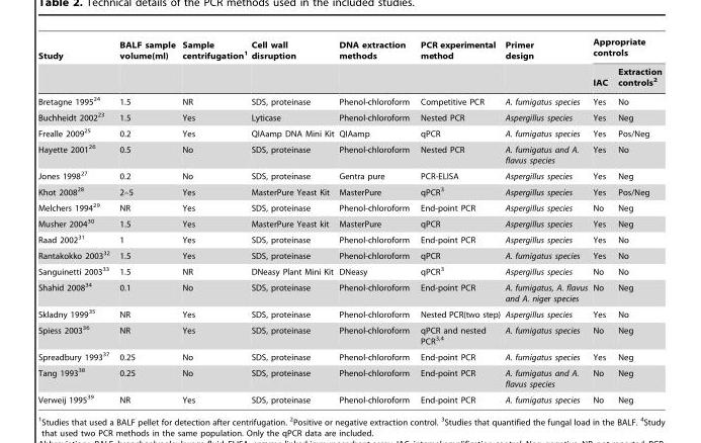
<table><thead><tr><td rowspan="2">Study</td><td rowspan="2">BALF sample volume(ml)</td><td rowspan="2">Sample centrifugation<sup>1</sup></td><td rowspan="2">Cell wall disruption</td><td rowspan="2">DNA extraction methods</td><td rowspan="2">PCR experimental method</td><td rowspan="2">Primer design</td><td colspan="2">Appropriate controls</td></tr><tr><td>IAC</td><td>Extraction controls<sup>2</sup></td></tr></thead><tbody><tr><td>Bretagne 1995<sup>24</sup></td><td>1.5</td><td>NR</td><td>SDS, proteinase</td><td>Phenol-chloroform</td><td>Competitive PCR</td><td>A. fumigatus species</td><td>Yes</td><td>No</td></tr><tr><td>Buchheidt 2002<sup>23</sup></td><td>1.5</td><td>Yes</td><td>Lyticase</td><td>Phenol-chloroform</td><td>Nested PCR</td><td>Aspergillus species</td><td>Yes</td><td>Neg</td></tr><tr><td>Frealle 2009<sup>25</sup></td><td>0.2</td><td>Yes</td><td>QIAamp DNA Mini Kit</td><td>QIAamp</td><td>qPCR</td><td>A. fumigatus species</td><td>Yes</td><td>Pos/Neg</td></tr><tr><td>Hayette 2001<sup>26</sup></td><td>0.5</td><td>No</td><td>SDS, proteinase</td><td>Phenol-chloroform</td><td>Nested PCR</td><td>A. fumigatus and A. flavus species</td><td>Yes</td><td>No</td></tr><tr><td>Jones 1998<sup>27</sup></td><td>0.2</td><td>No</td><td>SDS, proteinase</td><td>Gentra pure</td><td>PCR-ELISA</td><td>Aspergillus species</td><td>Yes</td><td>Neg</td></tr><tr><td>Khot 2008<sup>28</sup></td><td>2–5</td><td>Yes</td><td>MasterPure Yeast Kit</td><td>MasterPure</td><td>qPCR<sup>3</sup></td><td>Aspergillus species</td><td>Yes</td><td>Pos/Neg</td></tr><tr><td>Melchers 1994<sup>29</sup></td><td>NR</td><td>Yes</td><td>SDS, proteinase</td><td>Phenol-chloroform</td><td>End-point PCR</td><td>Aspergillus species</td><td>No</td><td>Neg</td></tr><tr><td>Musher 2004<sup>30</sup></td><td>1.5</td><td>Yes</td><td>MasterPure Yeast kit</td><td>MasterPure</td><td>qPCR</td><td>Aspergillus species</td><td>Yes</td><td>Neg</td></tr><tr><td>Raad 2002<sup>31</sup></td><td>1</td><td>Yes</td><td>SDS, proteinase</td><td>Phenol-chloroform</td><td>End-point PCR</td><td>Aspergillus species</td><td>Yes</td><td>No</td></tr><tr><td>Rantakokko 2003<sup>32</sup></td><td>1.5</td><td>Yes</td><td>SDS, proteinase</td><td>Phenol-chloroform</td><td>qPCR</td><td>A. fumigatus species</td><td>Yes</td><td>No</td></tr><tr><td>Sanguinetti 2003<sup>33</sup></td><td>1.5</td><td>NR</td><td>DNeasy Plant Mini Kit</td><td>DNeasy</td><td>qPCR<sup>3</sup></td><td>Aspergillus species</td><td>No</td><td>No</td></tr><tr><td>Shahid 2008<sup>34</sup></td><td>0.1</td><td>No</td><td>SDS, proteinase</td><td>Phenol-chloroform</td><td>End-point PCR</td><td>A. fumigatus, A. flavus and A. niger species</td><td>No</td><td>Neg</td></tr><tr><td>Skladny 1999<sup>35</sup></td><td>NR</td><td>Yes</td><td>SDS, proteinase</td><td>Phenol-chloroform</td><td>Nested PCR(two step)</td><td>Aspergillus species</td><td>Yes</td><td>No</td></tr><tr><td>Spiess 2003<sup>36</sup></td><td>NR</td><td>Yes</td><td>SDS, proteinase</td><td>Phenol-chloroform</td><td>qPCR and nested PCR<sup>3,4</sup></td><td>A. fumigatus species</td><td>No</td><td>Neg</td></tr><tr><td>Spreadbury 1993<sup>37</sup></td><td>0.25</td><td>No</td><td>SDS, proteinase</td><td>Phenol-chloroform</td><td>End-point PCR</td><td>A. fumigatus species</td><td>Yes</td><td>Neg</td></tr><tr><td>Tang 1993<sup>38</sup></td><td>0.25</td><td>No</td><td>SDS, proteinase</td><td>Phenol-chloroform</td><td>End-point PCR</td><td>A. fumigatus and A. flavus species</td><td>No</td><td>Neg</td></tr><tr><td>Verweij 1995<sup>39</sup></td><td>NR</td><td>Yes</td><td>SDS, proteinase</td><td>Phenol-chloroform</td><td>End-point PCR</td><td>A. fumigatus species</td><td>No</td><td>Neg</td></tr></tbody></table>